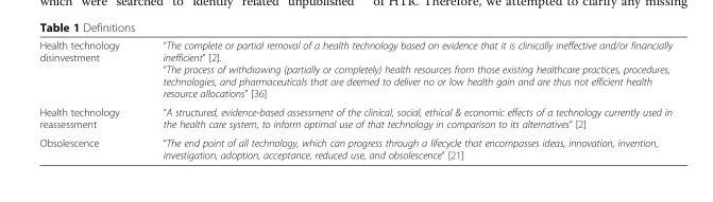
<table><tbody><tr><td>Health technology disinvestment</td><td>“The complete or partial removal of a health technology based on evidence that it is clinically ineffective and/or financially inefficient” [2]. “The process of withdrawing (partially or completely) health resources from those existing healthcare practices, procedures, technologies, and pharmaceuticals that are deemed to deliver no or low health gain and are thus not efficient health resource allocations” [36]</td></tr><tr><td>Health technology reassessment</td><td>“A structured, evidence-based assessment of the clinical, social, ethical &amp; economic effects of a technology currently used in the health care system, to inform optimal use of that technology in comparison to its alternatives” [2]</td></tr><tr><td>Obsolescence</td><td>“The end point of all technology, which can progress through a lifecycle that encompasses ideas, innovation, invention, investigation, adoption, acceptance, reduced use, and obsolescence” [21]</td></tr></tbody></table>